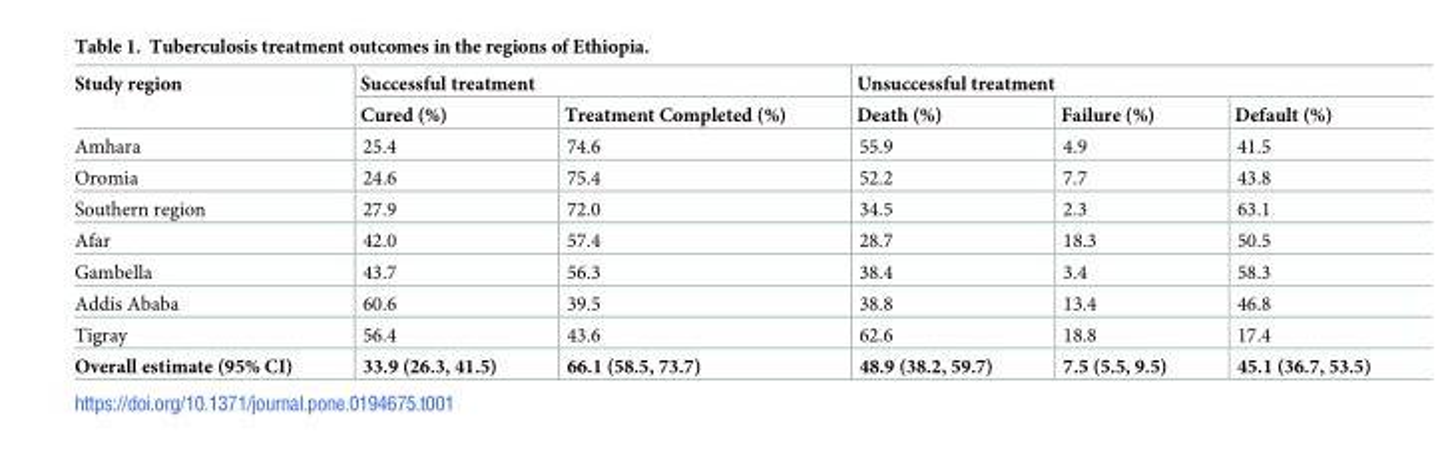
<table><thead><tr><td rowspan="2">Study region</td><td colspan="2">Successful treatment</td><td colspan="3">Unsuccessful treatment</td></tr><tr><td>Cured (%)</td><td>Treatment Completed (%)</td><td>Death (%)</td><td>Failure (%)</td><td>Default (%)</td></tr></thead><tbody><tr><td>Amhara</td><td>25.4</td><td>74.6</td><td>55.9</td><td>4.9</td><td>41.5</td></tr><tr><td>Oromia</td><td>24.6</td><td>75.4</td><td>52.2</td><td>7.7</td><td>43.8</td></tr><tr><td>Southern region</td><td>27.9</td><td>72.0</td><td>34.5</td><td>2.3</td><td>63.1</td></tr><tr><td>Afar</td><td>42.0</td><td>57.4</td><td>28.7</td><td>18.3</td><td>50.5</td></tr><tr><td>Gambella</td><td>43.7</td><td>56.3</td><td>38.4</td><td>3.4</td><td>58.3</td></tr><tr><td>Addis Ababa</td><td>60.6</td><td>39.5</td><td>38.8</td><td>13.4</td><td>46.8</td></tr><tr><td>Tigray</td><td>56.4</td><td>43.6</td><td>62.6</td><td>18.8</td><td>17.4</td></tr><tr><td>Overall estimate (95% CI)</td><td>33.9 (26.3, 41.5)</td><td>66.1 (58.5, 73.7)</td><td>48.9 (38.2, 59.7)</td><td>7.5 (5.5, 9.5)</td><td>45.1 (36.7, 53.5)</td></tr></tbody></table>